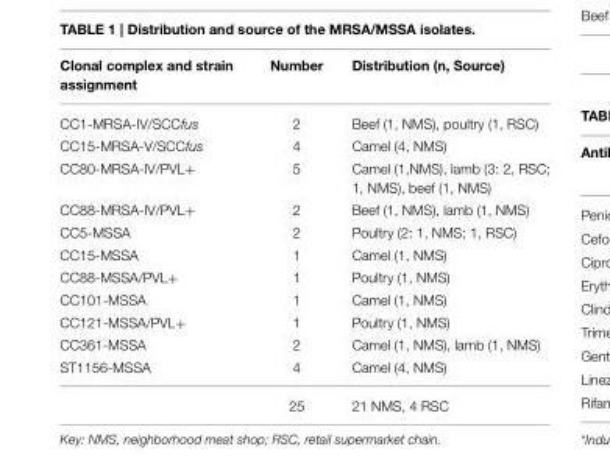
<table><thead><tr><td>Clonal complex and strain assignment</td><td>Number</td><td>Distribution (n, Source)</td></tr></thead><tbody><tr><td>CC1-MRSA-IV/SCCfus</td><td>2</td><td>Beef (1, NMS), poultry (1, RSC)</td></tr><tr><td>CC15-MRSA-V/SCCfus</td><td>4</td><td>Camel (4, NMS)</td></tr><tr><td>CC80-MRSA-IV/PVL+</td><td>5</td><td>Camel (1,NMS), lamb (3: 2, RSC; 1, NMS), beef (1, NMS)</td></tr><tr><td>CC88-MRSA-IV/PVL+</td><td>2</td><td>Beef (1, NMS), lamb (1, NMS)</td></tr><tr><td>CC5-MSSA</td><td>2</td><td>Poultry (2: 1, NMS; 1, RSC)</td></tr><tr><td>CC15-MSSA</td><td>1</td><td>Camel (1, NMS)</td></tr><tr><td>CC88-MSSA/PVL+</td><td>1</td><td>Poultry (1, NMS)</td></tr><tr><td>CC101-MSSA</td><td>1</td><td>Camel (1, NMS)</td></tr><tr><td>CC121-MSSA/PVL+</td><td>1</td><td>Poultry (1, NMS)</td></tr><tr><td>CC361-MSSA</td><td>2</td><td>Camel (1, NMS), lamb (1, NMS)</td></tr><tr><td rowspan="2">ST1156-MSSA</td><td>4</td><td>Camel (4, NMS)</td></tr><tr><td>25</td><td>21 NMS, 4 RSC</td></tr></tbody></table>